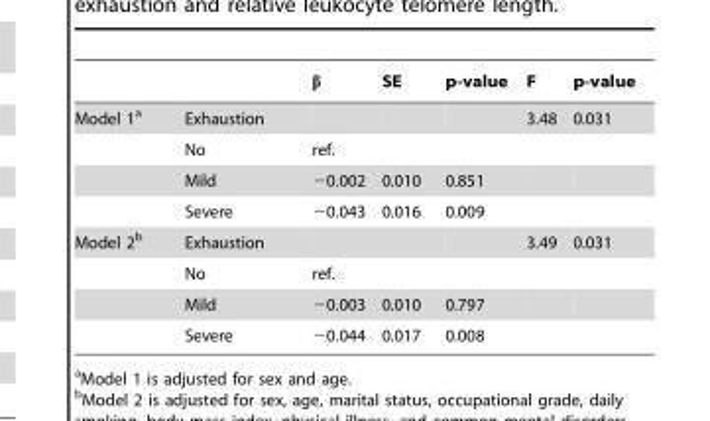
<table><thead><tr><td></td><td></td><td>β</td><td>SE</td><td>p-value</td><td>F</td><td>p-value</td></tr></thead><tbody><tr><td rowspan="4">Model 1<sup>a</sup></td><td>Exhaustion</td><td></td><td></td><td></td><td>3.48</td><td>0.031</td></tr><tr><td>No</td><td>ref.</td><td></td><td></td><td></td><td></td></tr><tr><td>Mild</td><td>−0.002</td><td>0.010</td><td>0.851</td><td></td><td></td></tr><tr><td>Severe</td><td>−0.043</td><td>0.016</td><td>0.009</td><td></td><td></td></tr><tr><td rowspan="4">Model 2<sup>b</sup></td><td>Exhaustion</td><td></td><td></td><td></td><td>3.49</td><td>0.031</td></tr><tr><td>No</td><td>ref.</td><td></td><td></td><td></td><td></td></tr><tr><td>Mild</td><td>−0.003</td><td>0.010</td><td>0.797</td><td></td><td></td></tr><tr><td>Severe</td><td>−0.044</td><td>0.017</td><td>0.008</td><td></td><td></td></tr></tbody></table>